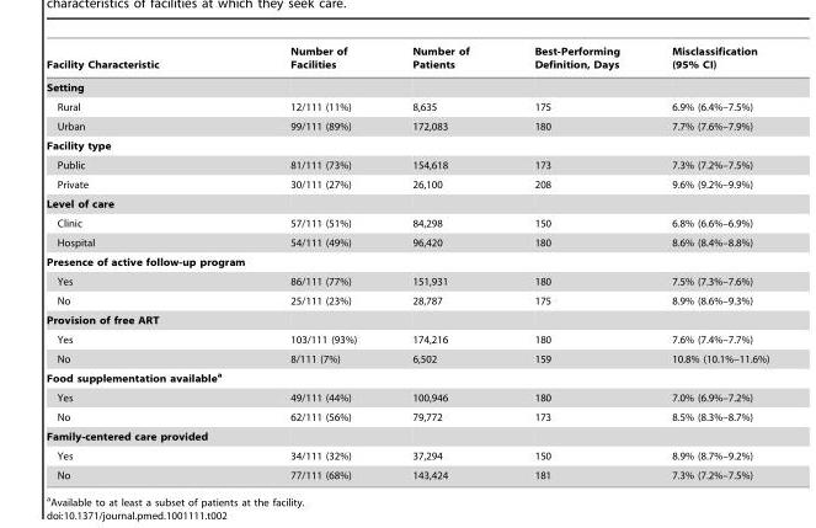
<table><thead><tr><td>Facility Characteristic</td><td>Number of Facilities</td><td>Number of Patients</td><td>Best-Performing Definition, Days</td><td>Misclassification (95% CI)</td></tr></thead><tbody><tr><td colspan="5">Setting</td></tr><tr><td>Rural</td><td>12/111 (11%)</td><td>8,635</td><td>175</td><td>6.9% (6.4%–7.5%)</td></tr><tr><td>Urban</td><td>99/111 (89%)</td><td>172,083</td><td>180</td><td>7.7% (7.6%–7.9%)</td></tr><tr><td colspan="5">Facility type</td></tr><tr><td>Public</td><td>81/111 (73%)</td><td>154,618</td><td>173</td><td>7.3% (7.2%–7.5%)</td></tr><tr><td>Private</td><td>30/111 (27%)</td><td>26,100</td><td>208</td><td>9.6% (9.2%–9.9%)</td></tr><tr><td colspan="5">Level of care</td></tr><tr><td>Clinic</td><td>57/111 (51%)</td><td>84,298</td><td>150</td><td>6.8% (6.6%–6.9%)</td></tr><tr><td>Hospital</td><td>54/111 (49%)</td><td>96,420</td><td>180</td><td>8.6% (8.4%–8.8%)</td></tr><tr><td colspan="5">Presence of active follow-up program</td></tr><tr><td>Yes</td><td>86/111 (77%)</td><td>151,931</td><td>180</td><td>7.5% (7.3%–7.6%)</td></tr><tr><td>No</td><td>25/111 (23%)</td><td>28,787</td><td>175</td><td>8.9% (8.6%–9.3%)</td></tr><tr><td colspan="5">Provision of free ART</td></tr><tr><td>Yes</td><td>103/111 (93%)</td><td>174,216</td><td>180</td><td>7.6% (7.4%–7.7%)</td></tr><tr><td>No</td><td>8/111 (7%)</td><td>6,502</td><td>159</td><td>10.8% (10.1%–11.6%)</td></tr><tr><td colspan="5">Food supplementation availablea</td></tr><tr><td>Yes</td><td>49/111 (44%)</td><td>100,946</td><td>180</td><td>7.0% (6.9%–7.2%)</td></tr><tr><td>No</td><td>62/111 (56%)</td><td>79,772</td><td>173</td><td>8.5% (8.3%–8.7%)</td></tr><tr><td colspan="5">Family-centered care provided</td></tr><tr><td>Yes</td><td>34/111 (32%)</td><td>37,294</td><td>150</td><td>8.9% (8.7%–9.2%)</td></tr><tr><td>No</td><td>77/111 (68%)</td><td>143,424</td><td>181</td><td>7.3% (7.2%–7.5%)</td></tr></tbody></table>